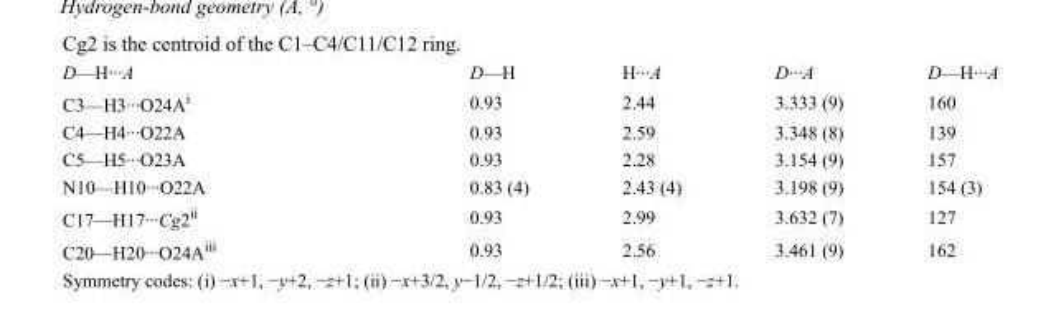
<table><tbody><tr><td>D—H···A</td><td>D—H</td><td>H···A</td><td>D···A</td><td>D—H···A</td></tr><tr><td>C3—H3···O24A<sup>i</sup></td><td>0.93</td><td>2.44</td><td>3.333 (9)</td><td>160</td></tr><tr><td>C4—H4···O22A</td><td>0.93</td><td>2.59</td><td>3.348 (8)</td><td>139</td></tr><tr><td>C5—H5···O23A</td><td>0.93</td><td>2.28</td><td>3.154 (9)</td><td>157</td></tr><tr><td>N10—H10···O22A</td><td>0.83 (4)</td><td>2.43 (4)</td><td>3.198 (9)</td><td>154 (3)</td></tr><tr><td>C17—H17···Cg2<sup>ii</sup></td><td>0.93</td><td>2.99</td><td>3.632 (7)</td><td>127</td></tr><tr><td>C20—H20···O24A<sup>iii</sup></td><td>0.93</td><td>2.56</td><td>3.461 (9)</td><td>162</td></tr></tbody></table>